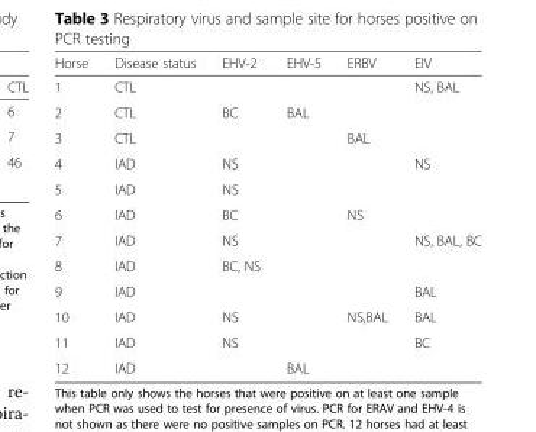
<table><thead><tr><td>Horse</td><td>Disease status</td><td>EHV-2</td><td>EHV-5</td><td>ERBV</td><td>EIV</td></tr></thead><tbody><tr><td>1</td><td>CTL</td><td></td><td></td><td></td><td>NS, BAL</td></tr><tr><td>2</td><td>CTL</td><td>BC</td><td>BAL</td><td></td><td></td></tr><tr><td>3</td><td>CTL</td><td></td><td></td><td>BAL</td><td></td></tr><tr><td>4</td><td>IAD</td><td>NS</td><td></td><td></td><td>NS</td></tr><tr><td>5</td><td>IAD</td><td>NS</td><td></td><td></td><td></td></tr><tr><td>6</td><td>IAD</td><td>BC</td><td></td><td>NS</td><td></td></tr><tr><td>7</td><td>IAD</td><td>NS</td><td></td><td></td><td>NS, BAL, BC</td></tr><tr><td>8</td><td>IAD</td><td>BC, NS</td><td></td><td></td><td></td></tr><tr><td>9</td><td>IAD</td><td></td><td></td><td></td><td>BAL</td></tr><tr><td>10</td><td>IAD</td><td>NS</td><td></td><td>NS,BAL</td><td>BAL</td></tr><tr><td>11</td><td>IAD</td><td>NS</td><td></td><td></td><td>BC</td></tr><tr><td>12</td><td>IAD</td><td></td><td>BAL</td><td></td><td></td></tr></tbody></table>